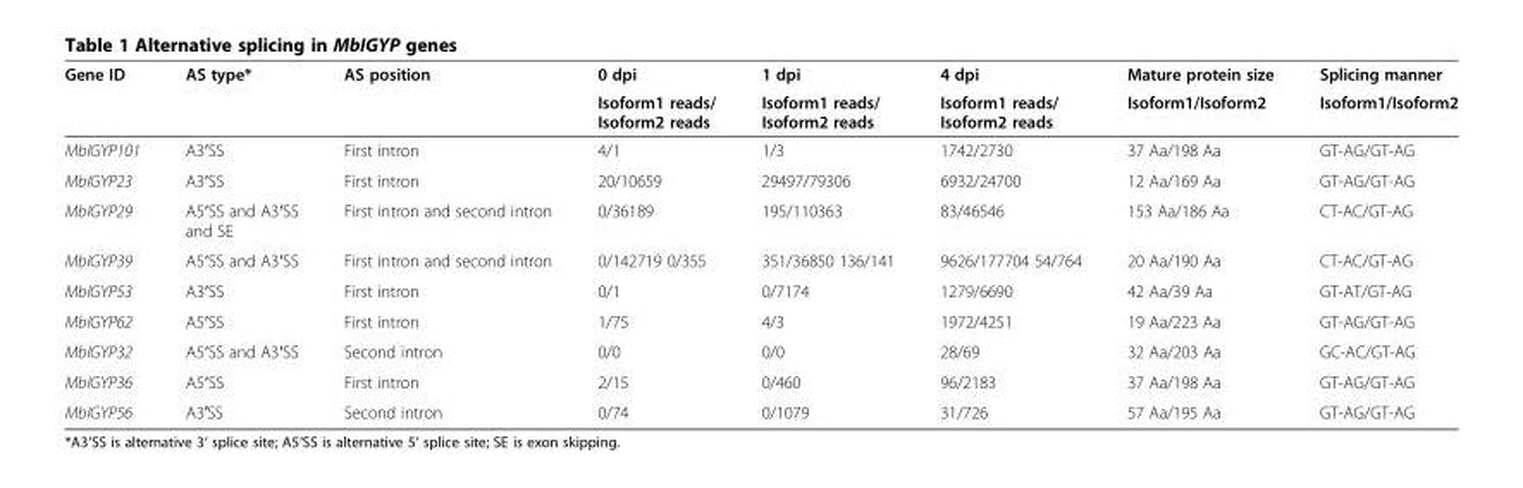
<table><thead><tr><td rowspan="2">Gene ID</td><td rowspan="2">AS type*</td><td rowspan="2">AS position</td><td rowspan="2">0 dpi Isoform1 reads/ Isoform2 reads</td><td rowspan="2">1 dpi Isoform1 reads/ Isoform2 reads</td><td rowspan="2">4 dpi Isoform1 reads/ Isoform2 reads</td><td rowspan="2">Mature protein size Isoform1/Isoform2</td><td rowspan="2">Splicing manner Isoform1/Isoform2</td></tr><tr></tr></thead><tbody><tr><td>MbIGYP101</td><td>A3′SS</td><td>First intron</td><td>4/1</td><td>1/3</td><td>1742/2730</td><td>37 Aa/198 Aa</td><td>GT-AG/GT-AG</td></tr><tr><td>MbIGYP23</td><td>A3′SS</td><td>First intron</td><td>20/10659</td><td>29497/79306</td><td>6932/24700</td><td>12 Aa/169 Aa</td><td>GT-AG/GT-AG</td></tr><tr><td>MbIGYP29</td><td>A5′SS and A3′SS and SE</td><td>First intron and second intron</td><td>0/36189</td><td>195/110363</td><td>83/46546</td><td>153 Aa/186 Aa</td><td>CT-AC/GT-AG</td></tr><tr><td>MbIGYP39</td><td>A5′SS and A3′SS</td><td>First intron and second intron</td><td>0/142719 0/355</td><td>351/36850 136/141</td><td>9626/177704 54/764</td><td>20 Aa/190 Aa</td><td>CT-AC/GT-AG</td></tr><tr><td>MbIGYP53</td><td>A3′SS</td><td>First intron</td><td>0/1</td><td>0/7174</td><td>1279/6690</td><td>42 Aa/39 Aa</td><td>GT-AT/GT-AG</td></tr><tr><td>MbIGYP62</td><td>A5′SS</td><td>First intron</td><td>1/75</td><td>4/3</td><td>1972/4251</td><td>19 Aa/223 Aa</td><td>GT-AG/GT-AG</td></tr><tr><td>MbIGYP32</td><td>A5′SS and A3′SS</td><td>Second intron</td><td>0/0</td><td>0/0</td><td>28/69</td><td>32 Aa/203 Aa</td><td>GC-AC/GT-AG</td></tr><tr><td>MbIGYP36</td><td>A5′SS</td><td>First intron</td><td>2/15</td><td>0/460</td><td>96/2183</td><td>37 Aa/198 Aa</td><td>GT-AG/GT-AG</td></tr><tr><td>MbIGYP56</td><td>A3′SS</td><td>Second intron</td><td>0/74</td><td>0/1079</td><td>31/726</td><td>57 Aa/195 Aa</td><td>GT-AG/GT-AG</td></tr></tbody></table>